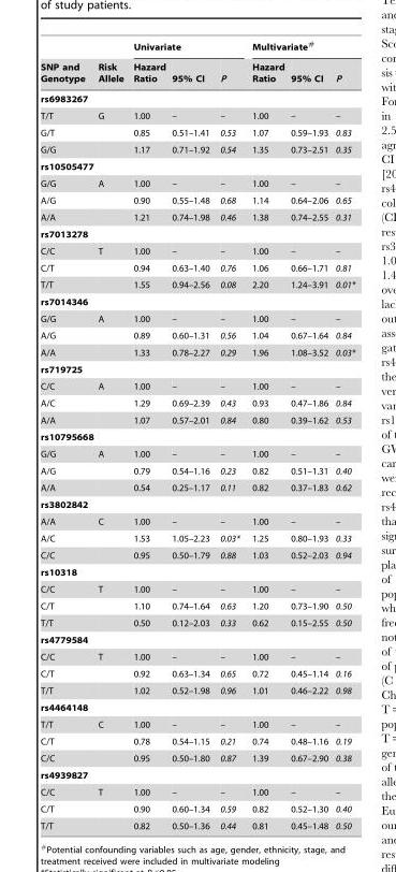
<table><thead><tr><td rowspan="2">SNP and Genotype</td><td rowspan="2">Risk Allele</td><td colspan="3">Univariate</td><td colspan="3">Multivariate#</td></tr><tr><td>Hazard Ratio</td><td>95% CI</td><td>P</td><td>Hazard Ratio</td><td>95% CI</td><td>P</td></tr></thead><tbody><tr><td colspan="8">rs6983267</td></tr><tr><td>T/T</td><td>G</td><td>1.00</td><td>–</td><td>–</td><td>1.00</td><td>–</td><td>–</td></tr><tr><td>G/T</td><td></td><td>0.85</td><td>0.51–1.41</td><td>0.53</td><td>1.07</td><td>0.59–1.93</td><td>0.83</td></tr><tr><td>G/G</td><td></td><td>1.17</td><td>0.71–1.92</td><td>0.54</td><td>1.35</td><td>0.73–2.51</td><td>0.35</td></tr><tr><td colspan="8">rs10505477</td></tr><tr><td>G/G</td><td>A</td><td>1.00</td><td>–</td><td>–</td><td>1.00</td><td>–</td><td>–</td></tr><tr><td>A/G</td><td></td><td>0.90</td><td>0.55–1.48</td><td>0.68</td><td>1.14</td><td>0.64–2.06</td><td>0.65</td></tr><tr><td>A/A</td><td></td><td>1.21</td><td>0.74–1.98</td><td>0.46</td><td>1.38</td><td>0.74–2.55</td><td>0.31</td></tr><tr><td colspan="8">rs7013278</td></tr><tr><td>C/C</td><td>T</td><td>1.00</td><td>–</td><td>–</td><td>1.00</td><td>–</td><td>–</td></tr><tr><td>C/T</td><td></td><td>0.94</td><td>0.63–1.40</td><td>0.76</td><td>1.06</td><td>0.66–1.71</td><td>0.81</td></tr><tr><td>T/T</td><td></td><td>1.55</td><td>0.94–2.56</td><td>0.08</td><td>2.20</td><td>1.24–3.91</td><td>0.01*</td></tr><tr><td colspan="8">rs7014346</td></tr><tr><td>G/G</td><td>A</td><td>1.00</td><td>–</td><td>–</td><td>1.00</td><td>–</td><td>–</td></tr><tr><td>A/G</td><td></td><td>0.89</td><td>0.60–1.31</td><td>0.56</td><td>1.04</td><td>0.67–1.64</td><td>0.84</td></tr><tr><td>A/A</td><td></td><td>1.33</td><td>0.78–2.27</td><td>0.29</td><td>1.96</td><td>1.08–3.52</td><td>0.03*</td></tr><tr><td colspan="8">rs719725</td></tr><tr><td>C/C</td><td>A</td><td>1.00</td><td>–</td><td>–</td><td>1.00</td><td>–</td><td>–</td></tr><tr><td>A/C</td><td></td><td>1.29</td><td>0.69–2.39</td><td>0.43</td><td>0.93</td><td>0.47–1.86</td><td>0.84</td></tr><tr><td>A/A</td><td></td><td>1.07</td><td>0.57–2.01</td><td>0.84</td><td>0.80</td><td>0.39–1.62</td><td>0.53</td></tr><tr><td colspan="8">rs10795668</td></tr><tr><td>G/G</td><td>A</td><td>1.00</td><td>–</td><td>–</td><td>1.00</td><td>–</td><td>–</td></tr><tr><td>A/G</td><td></td><td>0.79</td><td>0.54–1.16</td><td>0.23</td><td>0.82</td><td>0.51–1.31</td><td>0.40</td></tr><tr><td>A/A</td><td></td><td>0.54</td><td>0.25–1.17</td><td>0.11</td><td>0.82</td><td>0.37–1.83</td><td>0.62</td></tr><tr><td colspan="8">rs3802842</td></tr><tr><td>A/A</td><td>C</td><td>1.00</td><td>–</td><td>–</td><td>1.00</td><td>–</td><td>–</td></tr><tr><td>A/C</td><td></td><td>1.53</td><td>1.05–2.23</td><td>0.03*</td><td>1.25</td><td>0.80–1.93</td><td>0.33</td></tr><tr><td>C/C</td><td></td><td>0.95</td><td>0.50–1.79</td><td>0.88</td><td>1.03</td><td>0.52–2.03</td><td>0.94</td></tr><tr><td colspan="8">rs10318</td></tr><tr><td>C/C</td><td>T</td><td>1.00</td><td>–</td><td>–</td><td>1.00</td><td>–</td><td>–</td></tr><tr><td>C/T</td><td></td><td>1.10</td><td>0.74–1.64</td><td>0.63</td><td>1.20</td><td>0.73–1.90</td><td>0.50</td></tr><tr><td>T/T</td><td></td><td>0.50</td><td>0.12–2.03</td><td>0.33</td><td>0.62</td><td>0.15–2.55</td><td>0.50</td></tr><tr><td colspan="8">rs4779584</td></tr><tr><td>C/C</td><td>T</td><td>1.00</td><td>–</td><td>–</td><td>1.00</td><td>–</td><td>–</td></tr><tr><td>C/T</td><td></td><td>0.92</td><td>0.63–1.34</td><td>0.65</td><td>0.72</td><td>0.45–1.14</td><td>0.16</td></tr><tr><td>T/T</td><td></td><td>1.02</td><td>0.52–1.98</td><td>0.96</td><td>1.01</td><td>0.46–2.22</td><td>0.98</td></tr><tr><td colspan="8">rs4464148</td></tr><tr><td>T/T</td><td>C</td><td>1.00</td><td>–</td><td>–</td><td>1.00</td><td>–</td><td>–</td></tr><tr><td>C/T</td><td></td><td>0.78</td><td>0.54–1.15</td><td>0.21</td><td>0.74</td><td>0.48–1.16</td><td>0.19</td></tr><tr><td>C/C</td><td></td><td>0.95</td><td>0.50–1.80</td><td>0.87</td><td>1.39</td><td>0.67–2.90</td><td>0.38</td></tr><tr><td colspan="8">rs4939827</td></tr><tr><td>C/C</td><td>T</td><td>1.00</td><td>–</td><td>–</td><td>1.00</td><td>–</td><td>–</td></tr><tr><td>C/T</td><td></td><td>0.90</td><td>0.60–1.34</td><td>0.59</td><td>0.82</td><td>0.52–1.30</td><td>0.40</td></tr><tr><td>T/T</td><td></td><td>0.82</td><td>0.50–1.36</td><td>0.44</td><td>0.81</td><td>0.45–1.48</td><td>0.50</td></tr></tbody></table>